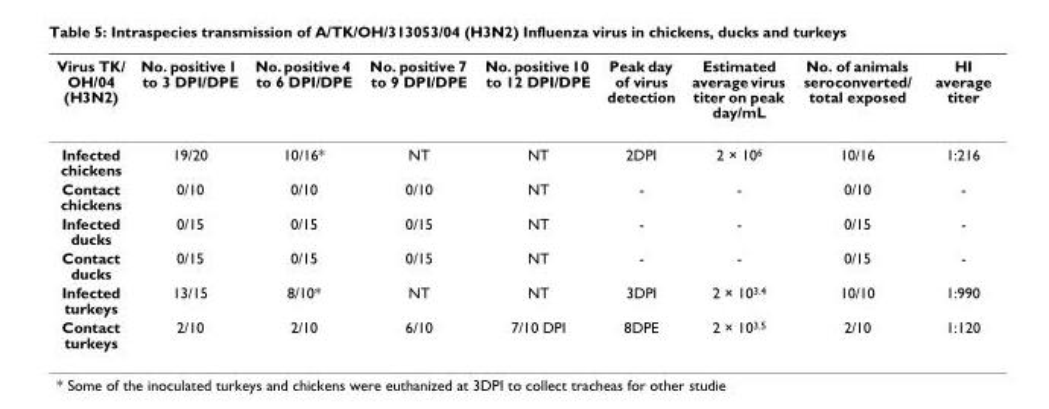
<table><thead><tr><td>Virus TK/ OH/04 (H3N2)</td><td>No. positive 1 to 3 DPI/DPE</td><td>No. positive 4 to 6 DPI/DPE</td><td>No. positive 7 to 9 DPI/DPE</td><td>No. positive 10 to 12 DPI/DPE</td><td>Peak day of virus detection</td><td>Estimated average virus titer on peak day/mL</td><td>No. of animals seroconverted/ total exposed</td><td>HI average titer</td></tr></thead><tbody><tr><td>Infected chickens</td><td>19/20</td><td>10/16*</td><td>NT</td><td>NT</td><td>2DPI</td><td>2 × 10<sup>6</sup></td><td>10/16</td><td>1:216</td></tr><tr><td>Contact chickens</td><td>0/10</td><td>0/10</td><td>0/10</td><td>NT</td><td>-</td><td>-</td><td>0/10</td><td>-</td></tr><tr><td>Infected ducks</td><td>0/15</td><td>0/15</td><td>0/15</td><td>NT</td><td>-</td><td>-</td><td>0/15</td><td>-</td></tr><tr><td>Contact ducks</td><td>0/15</td><td>0/15</td><td>0/15</td><td>NT</td><td>-</td><td>-</td><td>0/15</td><td>-</td></tr><tr><td>Infected turkeys</td><td>13/15</td><td>8/10*</td><td>NT</td><td>NT</td><td>3DPI</td><td>2 × 10<sup>3.4</sup></td><td>10/10</td><td>1:990</td></tr><tr><td>Contact turkeys</td><td>2/10</td><td>2/10</td><td>6/10</td><td>7/10 DPI</td><td>8DPE</td><td>2 × 10<sup>3.5</sup></td><td>2/10</td><td>1:120</td></tr></tbody></table>